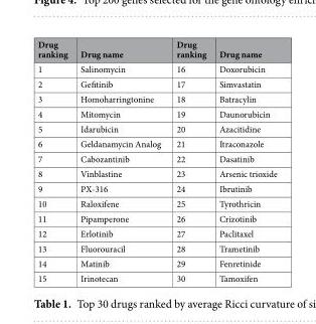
<table><thead><tr><td>Drug ranking</td><td>Drug name</td><td>Drug ranking</td><td>Drug name</td></tr></thead><tbody><tr><td>1</td><td>Salinomycin</td><td>16</td><td>Doxorubicin</td></tr><tr><td>2</td><td>Gefitinib</td><td>17</td><td>Simvastatin</td></tr><tr><td>3</td><td>Homoharringtonine</td><td>18</td><td>Batracylin</td></tr><tr><td>4</td><td>Mitomycin</td><td>19</td><td>Daunorubicin</td></tr><tr><td>5</td><td>Idarubicin</td><td>20</td><td>Azacitidine</td></tr><tr><td>6</td><td>Geldanamycin Analog</td><td>21</td><td>Itraconazole</td></tr><tr><td>7</td><td>Cabozantinib</td><td>22</td><td>Dasatinib</td></tr><tr><td>8</td><td>Vinblastine</td><td>23</td><td>Arsenic trioxide</td></tr><tr><td>9</td><td>PX-316</td><td>24</td><td>Ibrutinib</td></tr><tr><td>10</td><td>Raloxifene</td><td>25</td><td>Tyrothricin</td></tr><tr><td>11</td><td>Pipamperone</td><td>26</td><td>Crizotinib</td></tr><tr><td>12</td><td>Erlotinib</td><td>27</td><td>Paclitaxel</td></tr><tr><td>13</td><td>Fluorouracil</td><td>28</td><td>Trametinib</td></tr><tr><td>14</td><td>Matinib</td><td>29</td><td>Fenretinide</td></tr><tr><td>15</td><td>Irinotecan</td><td>30</td><td>Tamoxifen</td></tr></tbody></table>